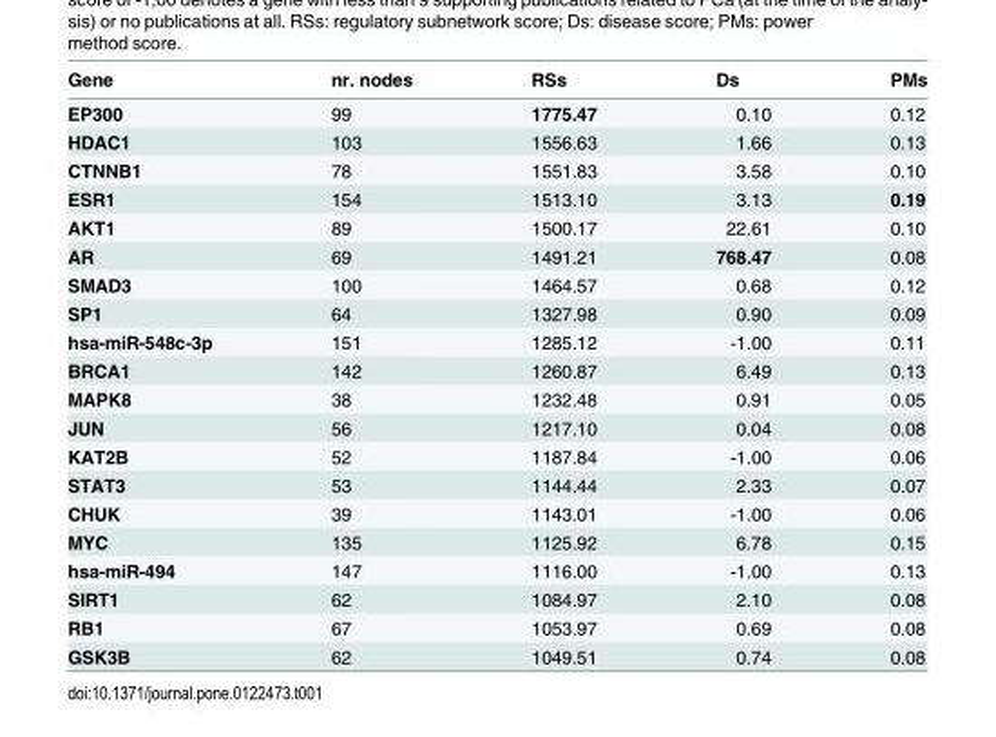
<table><thead><tr><td>Gene</td><td>nr. nodes</td><td>RSs</td><td>Ds</td><td>PMs</td></tr></thead><tbody><tr><td>EP300</td><td>99</td><td>1775.47</td><td>0.10</td><td>0.12</td></tr><tr><td>HDAC1</td><td>103</td><td>1556.63</td><td>1.66</td><td>0.13</td></tr><tr><td>CTNNB1</td><td>78</td><td>1551.83</td><td>3.58</td><td>0.10</td></tr><tr><td>ESR1</td><td>154</td><td>1513.10</td><td>3.13</td><td>0.19</td></tr><tr><td>AKT1</td><td>89</td><td>1500.17</td><td>22.61</td><td>0.10</td></tr><tr><td>AR</td><td>69</td><td>1491.21</td><td>768.47</td><td>0.08</td></tr><tr><td>SMAD3</td><td>100</td><td>1464.57</td><td>0.68</td><td>0.12</td></tr><tr><td>SP1</td><td>64</td><td>1327.98</td><td>0.90</td><td>0.09</td></tr><tr><td>hsa-miR-548c-3p</td><td>151</td><td>1285.12</td><td>-1.00</td><td>0.11</td></tr><tr><td>BRCA1</td><td>142</td><td>1260.87</td><td>6.49</td><td>0.13</td></tr><tr><td>MAPK8</td><td>38</td><td>1232.48</td><td>0.91</td><td>0.05</td></tr><tr><td>JUN</td><td>56</td><td>1217.10</td><td>0.04</td><td>0.08</td></tr><tr><td>KAT2B</td><td>52</td><td>1187.84</td><td>-1.00</td><td>0.06</td></tr><tr><td>STAT3</td><td>53</td><td>1144.44</td><td>2.33</td><td>0.07</td></tr><tr><td>CHUK</td><td>39</td><td>1143.01</td><td>-1.00</td><td>0.06</td></tr><tr><td>MYC</td><td>135</td><td>1125.92</td><td>6.78</td><td>0.15</td></tr><tr><td>hsa-miR-494</td><td>147</td><td>1116.00</td><td>-1.00</td><td>0.13</td></tr><tr><td>SIRT1</td><td>62</td><td>1084.97</td><td>2.10</td><td>0.08</td></tr><tr><td>RB1</td><td>67</td><td>1053.97</td><td>0.69</td><td>0.08</td></tr><tr><td>GSK3B</td><td>62</td><td>1049.51</td><td>0.74</td><td>0.08</td></tr></tbody></table>